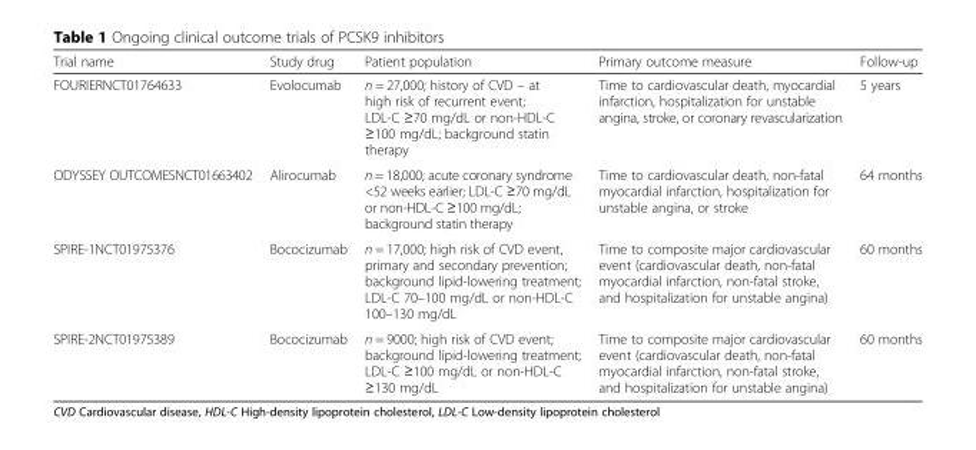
<table><thead><tr><td>Trial name</td><td>Study drug</td><td>Patient population</td><td>Primary outcome measure</td><td>Follow-up</td></tr></thead><tbody><tr><td>FOURIERNCT01764633</td><td>Evolocumab</td><td>n = 27,000; history of CVD – at high risk of recurrent event; LDL-C ≥70 mg/dL or non-HDL-C ≥100 mg/dL; background statin therapy</td><td>Time to cardiovascular death, myocardial infarction, hospitalization for unstable angina, stroke, or coronary revascularization</td><td>5 years</td></tr><tr><td>ODYSSEY OUTCOMESNCT01663402</td><td>Alirocumab</td><td>n = 18,000; acute coronary syndrome &lt;52 weeks earlier; LDL-C ≥70 mg/dL or non-HDL-C ≥100 mg/dL; background statin therapy</td><td>Time to cardiovascular death, non-fatal myocardial infarction, hospitalization for unstable angina, or stroke</td><td>64 months</td></tr><tr><td>SPIRE-1NCT01975376</td><td>Bococizumab</td><td>n = 17,000; high risk of CVD event, primary and secondary prevention; background lipid-lowering treatment; LDL-C 70–100 mg/dL or non-HDL-C 100–130 mg/dL</td><td>Time to composite major cardiovascular event (cardiovascular death, non-fatal myocardial infarction, non-fatal stroke, and hospitalization for unstable angina)</td><td>60 months</td></tr><tr><td>SPIRE-2NCT01975389</td><td>Bococizumab</td><td>n = 9000; high risk of CVD event; background lipid-lowering treatment; LDL-C ≥100 mg/dL or non-HDL-C ≥130 mg/dL</td><td>Time to composite major cardiovascular event (cardiovascular death, non-fatal myocardial infarction, non-fatal stroke, and hospitalization for unstable angina)</td><td>60 months</td></tr></tbody></table>